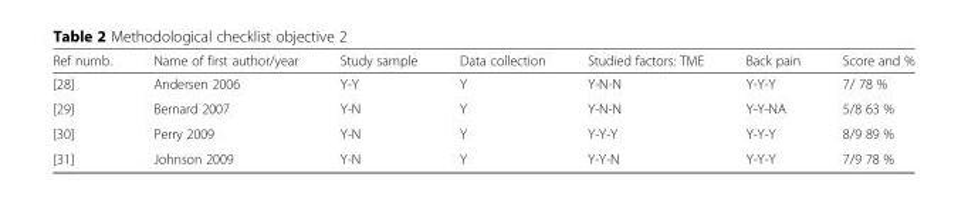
<table><thead><tr><td>Ref numb.</td><td>Name of first author/year</td><td>Study sample</td><td>Data collection</td><td>Studied factors: TME</td><td>Back pain</td><td>Score and %</td></tr></thead><tbody><tr><td>[28]</td><td>Andersen 2006</td><td>Y-Y</td><td>Y</td><td>Y-N-N</td><td>Y-Y-Y</td><td>7/ 78 %</td></tr><tr><td>[29]</td><td>Bernard 2007</td><td>Y-N</td><td>Y</td><td>Y-N-N</td><td>Y-Y-NA</td><td>5/8 63 %</td></tr><tr><td>[30]</td><td>Perry 2009</td><td>Y-N</td><td>Y</td><td>Y-Y-Y</td><td>Y-Y-Y</td><td>8/9 89 %</td></tr><tr><td>[31]</td><td>Johnson 2009</td><td>Y-N</td><td>Y</td><td>Y-Y-N</td><td>Y-Y-Y</td><td>7/9 78 %</td></tr></tbody></table>